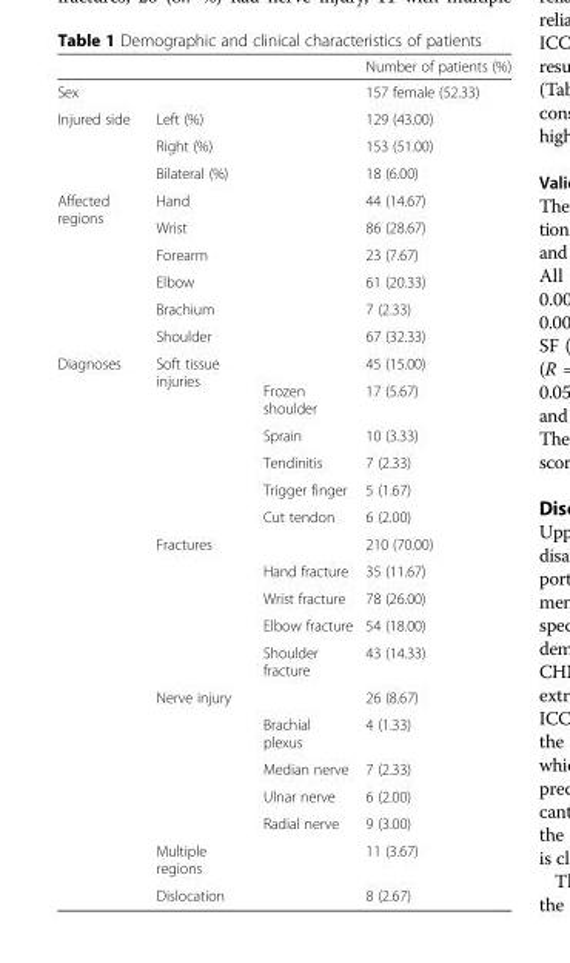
<table><thead><tr><td></td><td></td><td></td><td>Number of patients (%)</td></tr></thead><tbody><tr><td>Sex</td><td></td><td></td><td>157 female (52.33)</td></tr><tr><td rowspan="3">Injured side</td><td>Left (%)</td><td></td><td>129 (43.00)</td></tr><tr><td>Right (%)</td><td></td><td>153 (51.00)</td></tr><tr><td>Bilateral (%)</td><td></td><td>18 (6.00)</td></tr><tr><td rowspan="6">Affected regions</td><td>Hand</td><td></td><td>44 (14.67)</td></tr><tr><td>Wrist</td><td></td><td>86 (28.67)</td></tr><tr><td>Forearm</td><td></td><td>23 (7.67)</td></tr><tr><td>Elbow</td><td></td><td>61 (20.33)</td></tr><tr><td>Brachium</td><td></td><td>7 (2.33)</td></tr><tr><td>Shoulder</td><td></td><td>67 (32.33)</td></tr><tr><td rowspan="18">Diagnoses</td><td rowspan="6">Soft tissue injuries</td><td></td><td>45 (15.00)</td></tr><tr><td>Frozen shoulder</td><td>17 (5.67)</td></tr><tr><td>Sprain</td><td>10 (3.33)</td></tr><tr><td>Tendinitis</td><td>7 (2.33)</td></tr><tr><td>Trigger finger</td><td>5 (1.67)</td></tr><tr><td>Cut tendon</td><td>6 (2.00)</td></tr><tr><td rowspan="5">Fractures</td><td></td><td>210 (70.00)</td></tr><tr><td>Hand fracture</td><td>35 (11.67)</td></tr><tr><td>Wrist fracture</td><td>78 (26.00)</td></tr><tr><td>Elbow fracture</td><td>54 (18.00)</td></tr><tr><td>Shoulder fracture</td><td>43 (14.33)</td></tr><tr><td rowspan="5">Nerve injury</td><td></td><td>26 (8.67)</td></tr><tr><td>Brachial plexus</td><td>4 (1.33)</td></tr><tr><td>Median nerve</td><td>7 (2.33)</td></tr><tr><td>Ulnar nerve</td><td>6 (2.00)</td></tr><tr><td>Radial nerve</td><td>9 (3.00)</td></tr><tr><td>Multiple regions</td><td></td><td>11 (3.67)</td></tr><tr><td>Dislocation</td><td></td><td>8 (2.67)</td></tr></tbody></table>